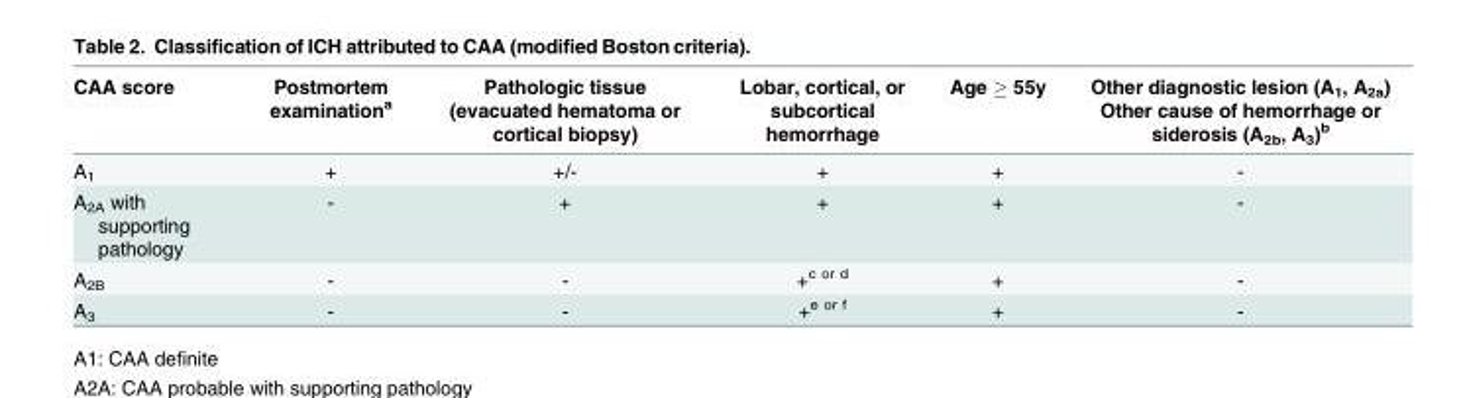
<table><thead><tr><td>CAA score</td><td>Postmortem examination<sup>a</sup></td><td>Pathologic tissue (evacuated hematoma or cortical biopsy)</td><td>Lobar, cortical, or subcortical hemorrhage</td><td>Age ≥ 55y</td><td>Other diagnostic lesion (A<sub>1</sub>, A<sub>2a</sub>) Other cause of hemorrhage or siderosis (A<sub>2b</sub>, A<sub>3</sub>)<sup>b</sup></td></tr></thead><tbody><tr><td>A<sub>1</sub></td><td>+</td><td>+/-</td><td>+</td><td>+</td><td>-</td></tr><tr><td>A<sub>2A</sub> with supporting pathology</td><td>-</td><td>+</td><td>+</td><td>+</td><td>-</td></tr><tr><td>A<sub>2B</sub></td><td>-</td><td>-</td><td>+<sup>c or d</sup></td><td>+</td><td>-</td></tr><tr><td>A<sub>3</sub></td><td>-</td><td>-</td><td>+<sup>e or f</sup></td><td>+</td><td>-</td></tr></tbody></table>